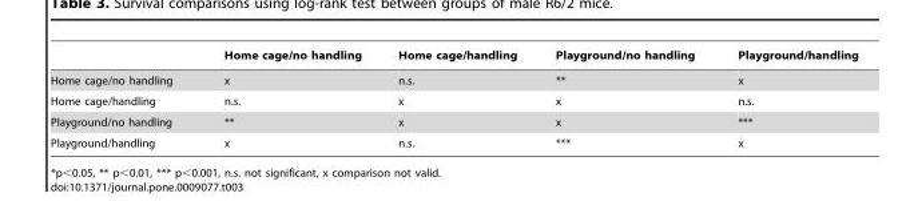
<table><thead><tr><td></td><td>Home cage/no handling</td><td>Home cage/handling</td><td>Playground/no handling</td><td>Playground/handling</td></tr></thead><tbody><tr><td>Home cage/no handling</td><td>x</td><td>n.s.</td><td>**</td><td>x</td></tr><tr><td>Home cage/handling</td><td>n.s.</td><td>x</td><td>x</td><td>n.s.</td></tr><tr><td>Playground/no handling</td><td>**</td><td>x</td><td>x</td><td>***</td></tr><tr><td>Playground/handling</td><td>x</td><td>n.s.</td><td>***</td><td>x</td></tr></tbody></table>